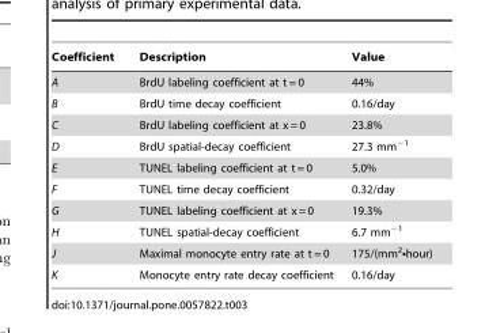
<table><thead><tr><td>Coefficient</td><td>Description</td><td>Value</td></tr></thead><tbody><tr><td>A</td><td>BrdU labeling coefficient at t = 0</td><td>44%</td></tr><tr><td>B</td><td>BrdU time decay coefficient</td><td>0.16/day</td></tr><tr><td>C</td><td>BrdU labeling coefficient at x = 0</td><td>23.8%</td></tr><tr><td>D</td><td>BrdU spatial-decay coefficient</td><td>27.3 mm<sup>−1</sup></td></tr><tr><td>E</td><td>TUNEL labeling coefficient at t = 0</td><td>5.0%</td></tr><tr><td>F</td><td>TUNEL time decay coefficient</td><td>0.32/day</td></tr><tr><td>G</td><td>TUNEL labeling coefficient at x = 0</td><td>19.3%</td></tr><tr><td>H</td><td>TUNEL spatial-decay coefficient</td><td>6.7 mm<sup>−1</sup></td></tr><tr><td>J</td><td>Maximal monocyte entry rate at t = 0</td><td>175/(mm<sup>2</sup>•hour)</td></tr><tr><td>K</td><td>Monocyte entry rate decay coefficient</td><td>0.16/day</td></tr></tbody></table>